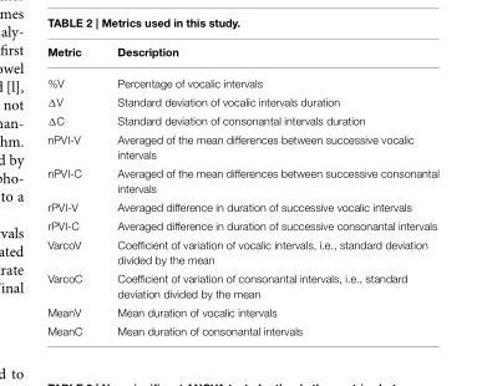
<table><thead><tr><td>Metric</td><td>Description</td></tr></thead><tbody><tr><td>%V</td><td>Percentage of vocalic intervals</td></tr><tr><td>ΔV</td><td>Standard deviation of vocalic intervals duration</td></tr><tr><td>ΔC</td><td>Standard deviation of consonantal intervals duration</td></tr><tr><td>nPVI-V</td><td>Averaged of the mean differences between successive vocalic intervals</td></tr><tr><td>nPVI-C</td><td>Averaged of the mean differences between successive consonantal intervals</td></tr><tr><td>rPVI-V</td><td>Averaged difference in duration of successive vocalic intervals</td></tr><tr><td>rPVI-C</td><td>Averaged difference in duration of successive consonantal intervals</td></tr><tr><td>VarcoV</td><td>Coefficient of variation of vocalic intervals, i.e., standard deviation divided by the mean</td></tr><tr><td>VarcoC</td><td>Coefficient of variation of consonantal intervals, i.e., standard deviation divided by the mean</td></tr><tr><td>MeanV</td><td>Mean duration of vocalic intervals</td></tr><tr><td>MeanC</td><td>Mean duration of consonantal intervals</td></tr></tbody></table>